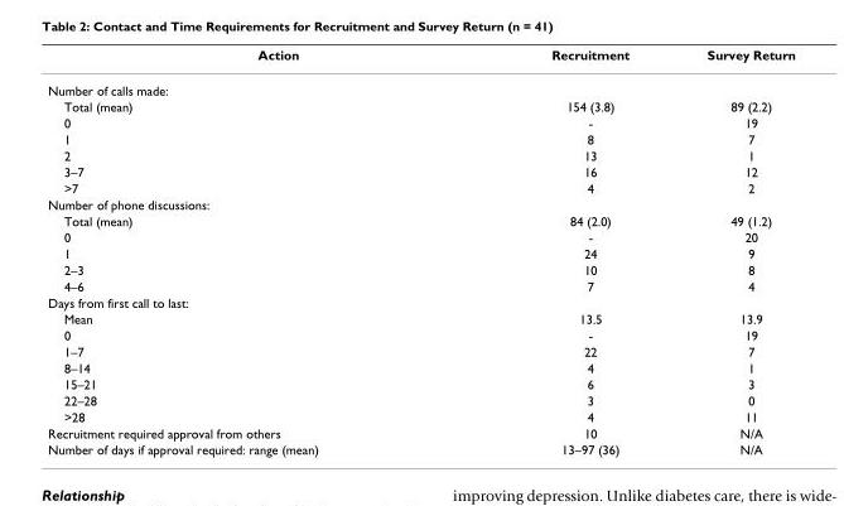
<table><thead><tr><td>Action</td><td>Recruitment</td><td>Survey Return</td></tr></thead><tbody><tr><td colspan="3">Number of calls made:</td></tr><tr><td>Total (mean)</td><td>154 (3.8)</td><td>89 (2.2)</td></tr><tr><td>0</td><td>-</td><td>19</td></tr><tr><td>1</td><td>8</td><td>7</td></tr><tr><td>2</td><td>13</td><td>1</td></tr><tr><td>3–7</td><td>16</td><td>12</td></tr><tr><td>&gt;7</td><td>4</td><td>2</td></tr><tr><td colspan="3">Number of phone discussions:</td></tr><tr><td>Total (mean)</td><td>84 (2.0)</td><td>49 (1.2)</td></tr><tr><td>0</td><td>-</td><td>20</td></tr><tr><td>1</td><td>24</td><td>9</td></tr><tr><td>2–3</td><td>10</td><td>8</td></tr><tr><td>4–6</td><td>7</td><td>4</td></tr><tr><td colspan="3">Days from first call to last:</td></tr><tr><td>Mean</td><td>13.5</td><td>13.9</td></tr><tr><td>0</td><td>-</td><td>19</td></tr><tr><td>1–7</td><td>22</td><td>7</td></tr><tr><td>8–14</td><td>4</td><td>1</td></tr><tr><td>15–21</td><td>6</td><td>3</td></tr><tr><td>22–28</td><td>3</td><td>0</td></tr><tr><td>&gt;28</td><td>4</td><td>11</td></tr><tr><td>Recruitment required approval from others</td><td>10</td><td>N/A</td></tr><tr><td>Number of days if approval required: range (mean)</td><td>13–97 (36)</td><td>N/A</td></tr></tbody></table>